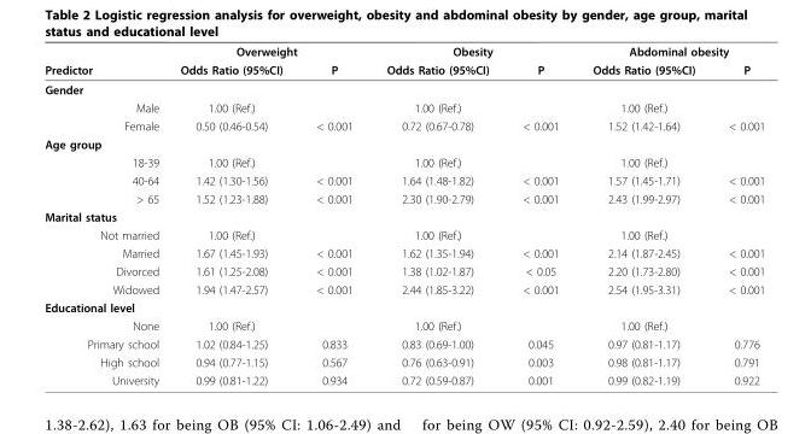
<table><thead><tr><td rowspan="2">Predictor</td><td colspan="2">Overweight</td><td colspan="2">Obesity</td><td colspan="2">Abdominal obesity</td></tr><tr><td>Odds Ratio (95%CI)</td><td>P</td><td>Odds Ratio (95%CI)</td><td>P</td><td>Odds Ratio (95%CI)</td><td>P</td></tr></thead><tbody><tr><td colspan="7">Gender</td></tr><tr><td>Male</td><td>1.00 (Ref.)</td><td></td><td>1.00 (Ref.)</td><td></td><td>1.00 (Ref.)</td><td></td></tr><tr><td>Female</td><td>0.50 (0.46-0.54)</td><td>&lt; 0.001</td><td>0.72 (0.67-0.78)</td><td>&lt; 0.001</td><td>1.52 (1.42-1.64)</td><td>&lt; 0.001</td></tr><tr><td colspan="7">Age group</td></tr><tr><td>18-39</td><td>1.00 (Ref.)</td><td></td><td>1.00 (Ref.)</td><td></td><td>1.00 (Ref.)</td><td></td></tr><tr><td>40-64</td><td>1.42 (1.30-1.56)</td><td>&lt; 0.001</td><td>1.64 (1.48-1.82)</td><td>&lt; 0.001</td><td>1.57 (1.45-1.71)</td><td>&lt; 0.001</td></tr><tr><td>&gt; 65</td><td>1.52 (1.23-1.88)</td><td>&lt; 0.001</td><td>2.30 (1.90-2.79)</td><td>&lt; 0.001</td><td>2.43 (1.99-2.97)</td><td>&lt; 0.001</td></tr><tr><td colspan="7">Marital status</td></tr><tr><td>Not married</td><td>1.00 (Ref.)</td><td></td><td>1.00 (Ref.)</td><td></td><td>1.00 (Ref.)</td><td></td></tr><tr><td>Married</td><td>1.67 (1.45-1.93)</td><td>&lt; 0.001</td><td>1.62 (1.35-1.94)</td><td>&lt; 0.001</td><td>2.14 (1.87-2.45)</td><td>&lt; 0.001</td></tr><tr><td>Divorced</td><td>1.61 (1.25-2.08)</td><td>&lt; 0.001</td><td>1.38 (1.02-1.87)</td><td>&lt; 0.05</td><td>2.20 (1.73-2.80)</td><td>&lt; 0.001</td></tr><tr><td>Widowed</td><td>1.94 (1.47-2.57)</td><td>&lt; 0.001</td><td>2.44 (1.85-3.22)</td><td>&lt; 0.001</td><td>2.54 (1.95-3.31)</td><td>&lt; 0.001</td></tr><tr><td colspan="7">Educational level</td></tr><tr><td>None</td><td>1.00 (Ref.)</td><td></td><td>1.00 (Ref.)</td><td></td><td>1.00 (Ref.)</td><td></td></tr><tr><td>Primary school</td><td>1.02 (0.84-1.25)</td><td>0.833</td><td>0.83 (0.69-1.00)</td><td>0.045</td><td>0.97 (0.81-1.17)</td><td>0.776</td></tr><tr><td>High school</td><td>0.94 (0.77-1.15)</td><td>0.567</td><td>0.76 (0.63-0.91)</td><td>0.003</td><td>0.98 (0.81-1.17)</td><td>0.791</td></tr><tr><td>University</td><td>0.99 (0.81-1.22)</td><td>0.934</td><td>0.72 (0.59-0.87)</td><td>0.001</td><td>0.99 (0.82-1.19)</td><td>0.922</td></tr></tbody></table>